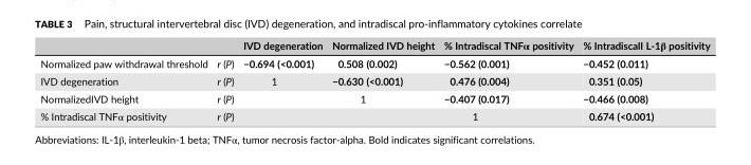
<table><thead><tr><td></td><td></td><td>IVD degeneration</td><td>Normalized IVD height</td><td>% Intradiscal TNFα positivity</td><td>% IntradiscalI L-1β positivity</td></tr></thead><tbody><tr><td>Normalized paw withdrawal threshold</td><td>r (P)</td><td>−0.694 (&lt;0.001)</td><td>0.508 (0.002)</td><td>−0.562 (0.001)</td><td>−0.452 (0.011)</td></tr><tr><td>IVD degeneration</td><td>r (P)</td><td>1</td><td>−0.630 (&lt;0.001)</td><td>0.476 (0.004)</td><td>0.351 (0.05)</td></tr><tr><td>NormalizedIVD height</td><td>r (P)</td><td></td><td>1</td><td>−0.407 (0.017)</td><td>−0.466 (0.008)</td></tr><tr><td>% Intradiscal TNFα positivity</td><td>r (P)</td><td></td><td></td><td>1</td><td>0.674 (&lt;0.001)</td></tr></tbody></table>